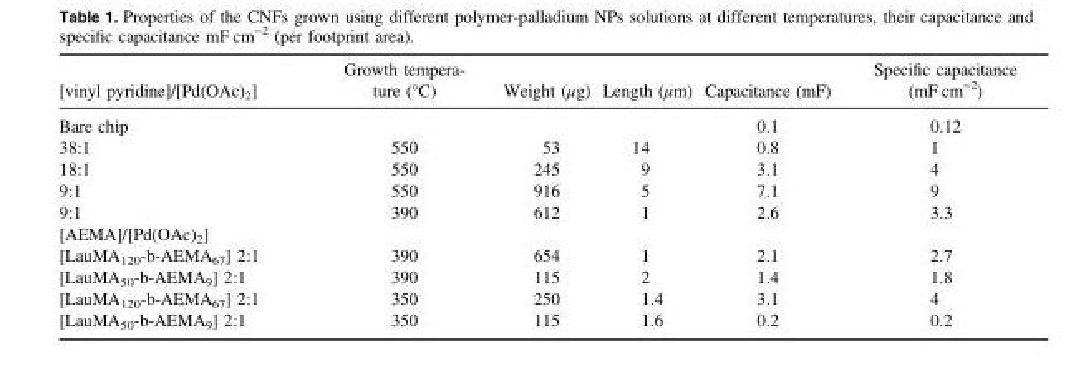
<table><thead><tr><td>[vinyl pyridine]/[Pd(OAc)<sub>2</sub>]</td><td>Growth tempera- ture (°C)</td><td>Weight (μg)</td><td>Length (μm)</td><td>Capacitance (mF)</td><td>Specific capacitance (mF cm<sup>−2</sup>)</td></tr></thead><tbody><tr><td>Bare chip</td><td></td><td></td><td></td><td>0.1</td><td>0.12</td></tr><tr><td>38:1</td><td>550</td><td>53</td><td>14</td><td>0.8</td><td>1</td></tr><tr><td>18:1</td><td>550</td><td>245</td><td>9</td><td>3.1</td><td>4</td></tr><tr><td>9:1</td><td>550</td><td>916</td><td>5</td><td>7.1</td><td>9</td></tr><tr><td>9:1</td><td>390</td><td>612</td><td>1</td><td>2.6</td><td>3.3</td></tr><tr><td colspan="6">[AEMA]/[Pd(OAc)<sub>2</sub>]</td></tr><tr><td>[LauMA<sub>120</sub>-b-AEMA<sub>67</sub>] 2:1</td><td>390</td><td>654</td><td>1</td><td>2.1</td><td>2.7</td></tr><tr><td>[LauMA<sub>50</sub>-b-AEMA<sub>9</sub>] 2:1</td><td>390</td><td>115</td><td>2</td><td>1.4</td><td>1.8</td></tr><tr><td>[LauMA<sub>120</sub>-b-AEMA<sub>67</sub>] 2:1</td><td>350</td><td>250</td><td>1.4</td><td>3.1</td><td>4</td></tr><tr><td>[LauMA<sub>50</sub>-b-AEMA<sub>9</sub>] 2:1</td><td>350</td><td>115</td><td>1.6</td><td>0.2</td><td>0.2</td></tr></tbody></table>